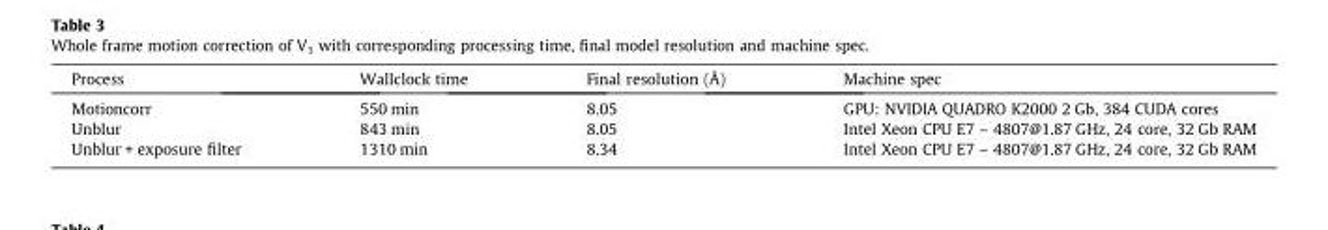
<table><thead><tr><td>Process</td><td>Wallclock time</td><td>Final resolution (Å)</td><td>Machine spec</td></tr></thead><tbody><tr><td>Motioncorr</td><td>550 min</td><td>8.05</td><td>GPU: NVIDIA QUADRO K2000 2 Gb, 384 CUDA cores</td></tr><tr><td>Unblur</td><td>843 min</td><td>8.05</td><td>Intel Xeon CPU E7 – 4807@1.87 GHz, 24 core, 32 Gb RAM</td></tr><tr><td>Unblur + exposure filter</td><td>1310 min</td><td>8.34</td><td>Intel Xeon CPU E7 – 4807@1.87 GHz, 24 core, 32 Gb RAM</td></tr></tbody></table>